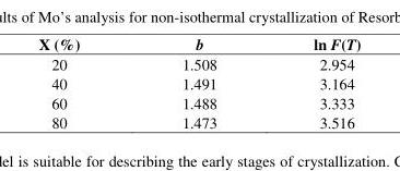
<table><thead><tr><td>X (%)</td><td>b</td><td>ln F(T)</td></tr></thead><tbody><tr><td>20</td><td>1.508</td><td>2.954</td></tr><tr><td>40</td><td>1.491</td><td>3.164</td></tr><tr><td>60</td><td>1.488</td><td>3.333</td></tr><tr><td>80</td><td>1.473</td><td>3.516</td></tr></tbody></table>